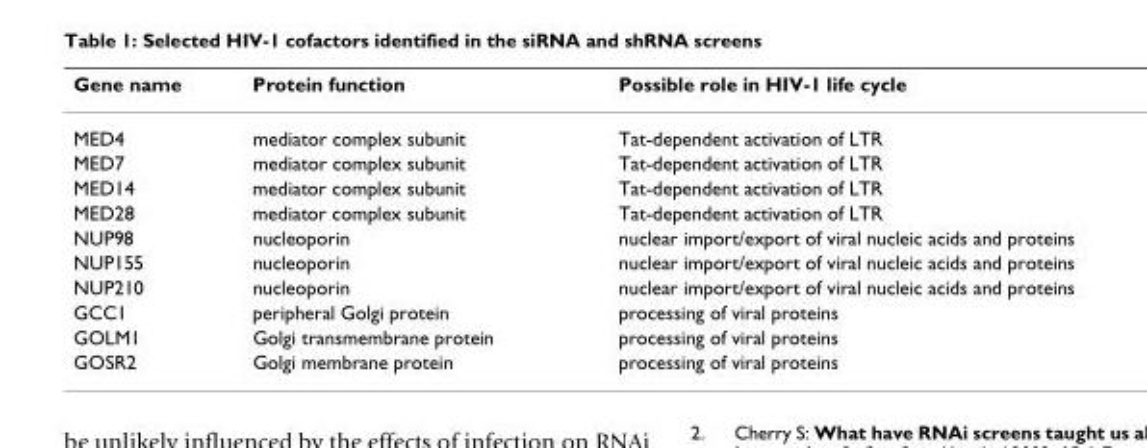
<table><thead><tr><td>Gene name</td><td>Protein function</td><td>Possible role in HIV-1 life cycle</td></tr></thead><tbody><tr><td>MED4</td><td>mediator complex subunit</td><td>Tat-dependent activation of LTR</td></tr><tr><td>MED7</td><td>mediator complex subunit</td><td>Tat-dependent activation of LTR</td></tr><tr><td>MED14</td><td>mediator complex subunit</td><td>Tat-dependent activation of LTR</td></tr><tr><td>MED28</td><td>mediator complex subunit</td><td>Tat-dependent activation of LTR</td></tr><tr><td>NUP98</td><td>nucleoporin</td><td>nuclear import/export of viral nucleic acids and proteins</td></tr><tr><td>NUP155</td><td>nucleoporin</td><td>nuclear import/export of viral nucleic acids and proteins</td></tr><tr><td>NUP210</td><td>nucleoporin</td><td>nuclear import/export of viral nucleic acids and proteins</td></tr><tr><td>GCC1</td><td>peripheral Golgi protein</td><td>processing of viral proteins</td></tr><tr><td>GOLM1</td><td>Golgi transmembrane protein</td><td>processing of viral proteins</td></tr><tr><td>GOSR2</td><td>Golgi membrane protein</td><td>processing of viral proteins</td></tr></tbody></table>